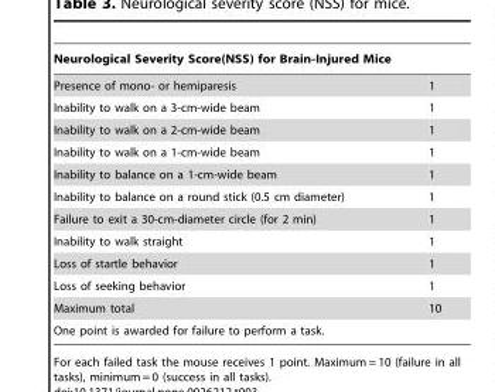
<table><thead><tr><td colspan="2">Neurological Severity Score(NSS) for Brain-Injured Mice</td></tr><tr><td>Presence of mono- or hemiparesis</td><td>1</td></tr></thead><tbody><tr><td>Inability to walk on a 3-cm-wide beam</td><td>1</td></tr><tr><td>Inability to walk on a 2-cm-wide beam</td><td>1</td></tr><tr><td>Inability to walk on a 1-cm-wide beam</td><td>1</td></tr><tr><td>Inability to balance on a 1-cm-wide beam</td><td>1</td></tr><tr><td>Inability to balance on a round stick (0.5 cm diameter)</td><td>1</td></tr><tr><td>Failure to exit a 30-cm-diameter circle (for 2 min)</td><td>1</td></tr><tr><td>Inability to walk straight</td><td>1</td></tr><tr><td>Loss of startle behavior</td><td>1</td></tr><tr><td>Loss of seeking behavior</td><td>1</td></tr><tr><td>Maximum total</td><td>10</td></tr><tr><td colspan="2">One point is awarded for failure to perform a task.</td></tr></tbody></table>